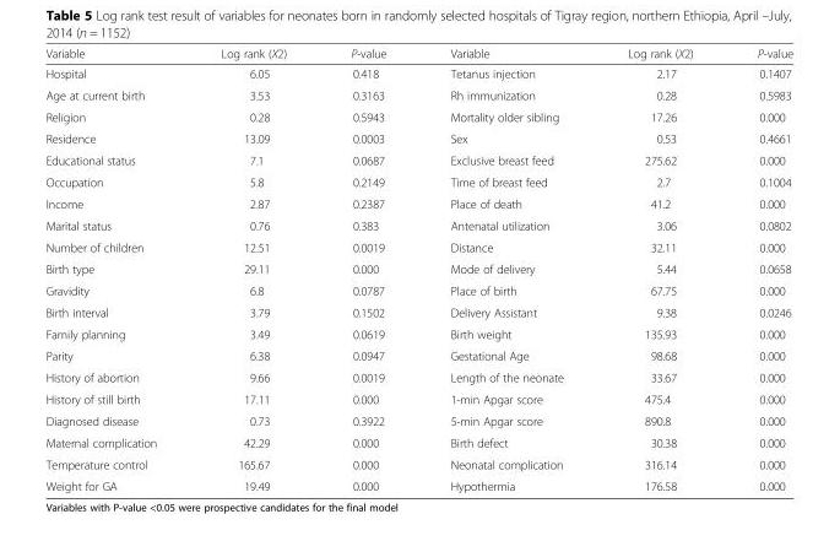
<table><thead><tr><td>Variable</td><td>Log rank (X2)</td><td>P-value</td><td>Variable</td><td>Log rank (X2)</td><td>P-value</td></tr></thead><tbody><tr><td>Hospital</td><td>6.05</td><td>0.418</td><td>Tetanus injection</td><td>2.17</td><td>0.1407</td></tr><tr><td>Age at current birth</td><td>3.53</td><td>0.3163</td><td>Rh immunization</td><td>0.28</td><td>0.5983</td></tr><tr><td>Religion</td><td>0.28</td><td>0.5943</td><td>Mortality older sibling</td><td>17.26</td><td>0.000</td></tr><tr><td>Residence</td><td>13.09</td><td>0.0003</td><td>Sex</td><td>0.53</td><td>0.4661</td></tr><tr><td>Educational status</td><td>7.1</td><td>0.0687</td><td>Exclusive breast feed</td><td>275.62</td><td>0.000</td></tr><tr><td>Occupation</td><td>5.8</td><td>0.2149</td><td>Time of breast feed</td><td>2.7</td><td>0.1004</td></tr><tr><td>Income</td><td>2.87</td><td>0.2387</td><td>Place of death</td><td>41.2</td><td>0.000</td></tr><tr><td>Marital status</td><td>0.76</td><td>0.383</td><td>Antenatal utilization</td><td>3.06</td><td>0.0802</td></tr><tr><td>Number of children</td><td>12.51</td><td>0.0019</td><td>Distance</td><td>32.11</td><td>0.000</td></tr><tr><td>Birth type</td><td>29.11</td><td>0.000</td><td>Mode of delivery</td><td>5.44</td><td>0.0658</td></tr><tr><td>Gravidity</td><td>6.8</td><td>0.0787</td><td>Place of birth</td><td>67.75</td><td>0.000</td></tr><tr><td>Birth interval</td><td>3.79</td><td>0.1502</td><td>Delivery Assistant</td><td>9.38</td><td>0.0246</td></tr><tr><td>Family planning</td><td>3.49</td><td>0.0619</td><td>Birth weight</td><td>135.93</td><td>0.000</td></tr><tr><td>Parity</td><td>6.38</td><td>0.0947</td><td>Gestational Age</td><td>98.68</td><td>0.000</td></tr><tr><td>History of abortion</td><td>9.66</td><td>0.0019</td><td>Length of the neonate</td><td>33.67</td><td>0.000</td></tr><tr><td>History of still birth</td><td>17.11</td><td>0.000</td><td>1-min Apgar score</td><td>475.4</td><td>0.000</td></tr><tr><td>Diagnosed disease</td><td>0.73</td><td>0.3922</td><td>5-min Apgar score</td><td>890.8</td><td>0.000</td></tr><tr><td>Maternal complication</td><td>42.29</td><td>0.000</td><td>Birth defect</td><td>30.38</td><td>0.000</td></tr><tr><td>Temperature control</td><td>165.67</td><td>0.000</td><td>Neonatal complication</td><td>316.14</td><td>0.000</td></tr><tr><td>Weight for GA</td><td>19.49</td><td>0.000</td><td>Hypothermia</td><td>176.58</td><td>0.000</td></tr></tbody></table>